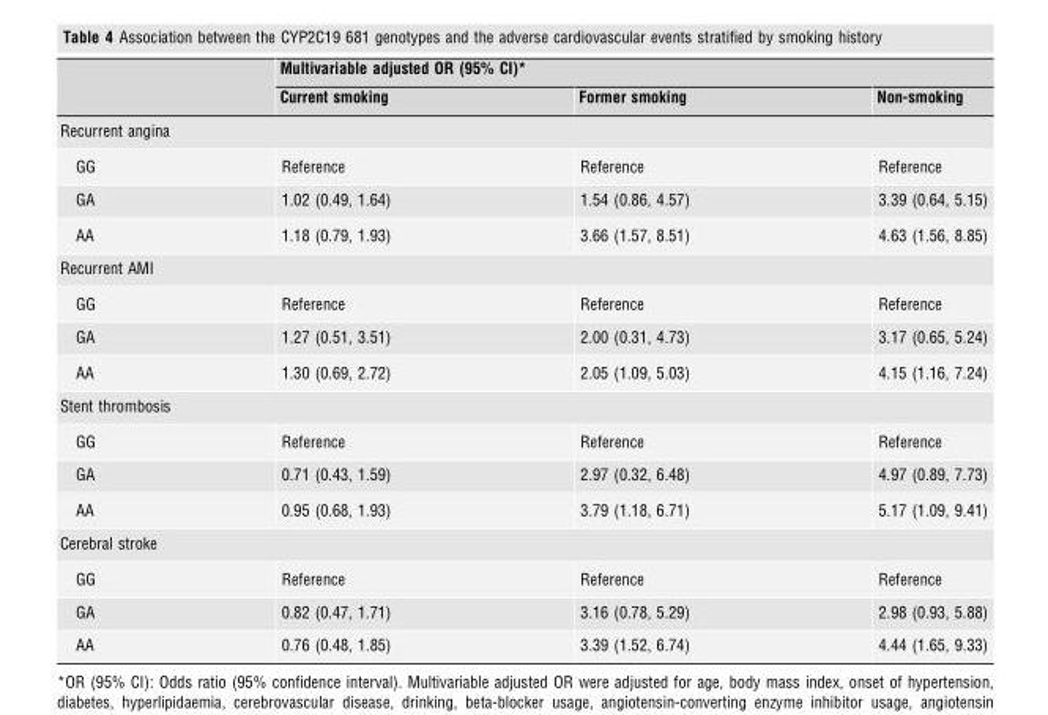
<table><thead><tr><td rowspan="2"></td><td colspan="3">Multivariable adjusted OR (95% CI)*</td></tr><tr><td>Current smoking</td><td>Former smoking</td><td>Non-smoking</td></tr></thead><tbody><tr><td colspan="4">Recurrent angina</td></tr><tr><td>GG</td><td>Reference</td><td>Reference</td><td>Reference</td></tr><tr><td>GA</td><td>1.02 (0.49, 1.64)</td><td>1.54 (0.86, 4.57)</td><td>3.39 (0.64, 5.15)</td></tr><tr><td>AA</td><td>1.18 (0.79, 1.93)</td><td>3.66 (1.57, 8.51)</td><td>4.63 (1.56, 8.85)</td></tr><tr><td colspan="4">Recurrent AMI</td></tr><tr><td>GG</td><td>Reference</td><td>Reference</td><td>Reference</td></tr><tr><td>GA</td><td>1.27 (0.51, 3.51)</td><td>2.00 (0.31, 4.73)</td><td>3.17 (0.65, 5.24)</td></tr><tr><td>AA</td><td>1.30 (0.69, 2.72)</td><td>2.05 (1.09, 5.03)</td><td>4.15 (1.16, 7.24)</td></tr><tr><td colspan="4">Stent thrombosis</td></tr><tr><td>GG</td><td>Reference</td><td>Reference</td><td>Reference</td></tr><tr><td>GA</td><td>0.71 (0.43, 1.59)</td><td>2.97 (0.32, 6.48)</td><td>4.97 (0.89, 7.73)</td></tr><tr><td>AA</td><td>0.95 (0.68, 1.93)</td><td>3.79 (1.18, 6.71)</td><td>5.17 (1.09, 9.41)</td></tr><tr><td colspan="4">Cerebral stroke</td></tr><tr><td>GG</td><td>Reference</td><td>Reference</td><td>Reference</td></tr><tr><td>GA</td><td>0.82 (0.47, 1.71)</td><td>3.16 (0.78, 5.29)</td><td>2.98 (0.93, 5.88)</td></tr><tr><td>AA</td><td>0.76 (0.48, 1.85)</td><td>3.39 (1.52, 6.74)</td><td>4.44 (1.65, 9.33)</td></tr></tbody></table>